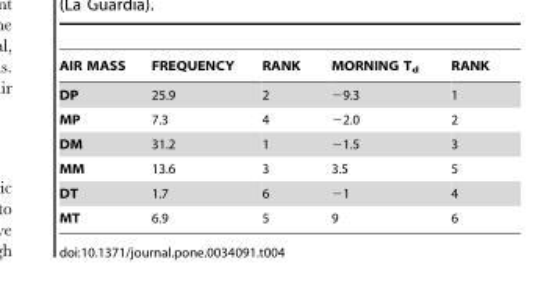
<table><thead><tr><td>AIR MASS</td><td>FREQUENCY</td><td>RANK</td><td>MORNING T<sub>d</sub></td><td>RANK</td></tr></thead><tbody><tr><td>DP</td><td>25.9</td><td>2</td><td>−9.3</td><td>1</td></tr><tr><td>MP</td><td>7.3</td><td>4</td><td>−2.0</td><td>2</td></tr><tr><td>DM</td><td>31.2</td><td>1</td><td>−1.5</td><td>3</td></tr><tr><td>MM</td><td>13.6</td><td>3</td><td>3.5</td><td>5</td></tr><tr><td>DT</td><td>1.7</td><td>6</td><td>−1</td><td>4</td></tr><tr><td>MT</td><td>6.9</td><td>5</td><td>9</td><td>6</td></tr></tbody></table>